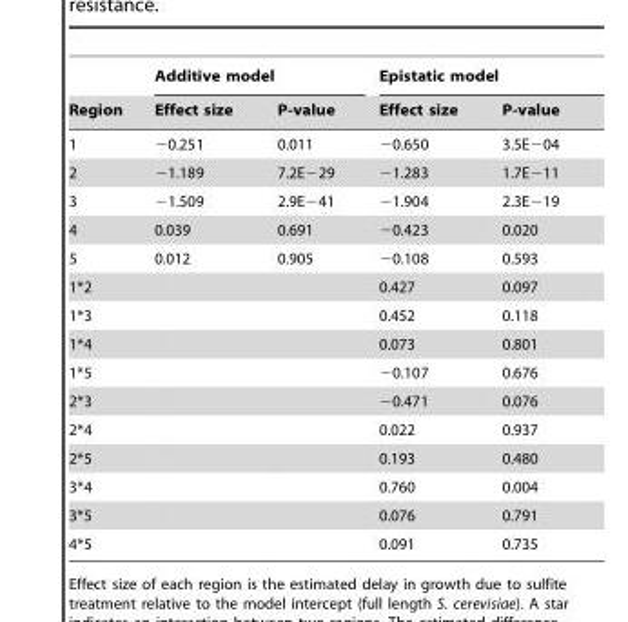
<table><thead><tr><td rowspan="2">Region</td><td colspan="2">Additive model</td><td colspan="2">Epistatic model</td></tr><tr><td>Effect size</td><td>P-value</td><td>Effect size</td><td>P-value</td></tr></thead><tbody><tr><td>1</td><td>−0.251</td><td>0.011</td><td>−0.650</td><td>3.5E−04</td></tr><tr><td>2</td><td>−1.189</td><td>7.2E−29</td><td>−1.283</td><td>1.7E−11</td></tr><tr><td>3</td><td>−1.509</td><td>2.9E−41</td><td>−1.904</td><td>2.3E−19</td></tr><tr><td>4</td><td>0.039</td><td>0.691</td><td>−0.423</td><td>0.020</td></tr><tr><td>5</td><td>0.012</td><td>0.905</td><td>−0.108</td><td>0.593</td></tr><tr><td>1*2</td><td></td><td></td><td>0.427</td><td>0.097</td></tr><tr><td>1*3</td><td></td><td></td><td>0.452</td><td>0.118</td></tr><tr><td>1*4</td><td></td><td></td><td>0.073</td><td>0.801</td></tr><tr><td>1*5</td><td></td><td></td><td>−0.107</td><td>0.676</td></tr><tr><td>2*3</td><td></td><td></td><td>−0.471</td><td>0.076</td></tr><tr><td>2*4</td><td></td><td></td><td>0.022</td><td>0.937</td></tr><tr><td>2*5</td><td></td><td></td><td>0.193</td><td>0.480</td></tr><tr><td>3*4</td><td></td><td></td><td>0.760</td><td>0.004</td></tr><tr><td>3*5</td><td></td><td></td><td>0.076</td><td>0.791</td></tr><tr><td>4*5</td><td></td><td></td><td>0.091</td><td>0.735</td></tr></tbody></table>